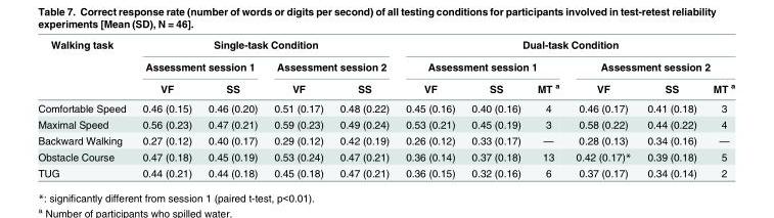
<table><thead><tr><td rowspan="3">Walking task</td><td colspan="4">Single-task Condition</td><td colspan="6">Dual-task Condition</td></tr><tr><td colspan="2">Assessment session 1</td><td colspan="2">Assessment session 2</td><td colspan="3">Assessment session 1</td><td colspan="3">Assessment session 2</td></tr><tr><td>VF</td><td>SS</td><td>VF</td><td>SS</td><td>VF</td><td>SS</td><td>MT <sup>a</sup></td><td>VF</td><td>SS</td><td>MT <sup>a</sup></td></tr></thead><tbody><tr><td>Comfortable Speed</td><td>0.46 (0.15)</td><td>0.46 (0.20)</td><td>0.51 (0.17)</td><td>0.48 (0.22)</td><td>0.45 (0.16)</td><td>0.40 (0.16)</td><td>4</td><td>0.46 (0.17)</td><td>0.41 (0.18)</td><td>3</td></tr><tr><td>Maximal Speed</td><td>0.56 (0.23)</td><td>0.47 (0.21)</td><td>0.59 (0.23)</td><td>0.49 (0.24)</td><td>0.53 (0.21)</td><td>0.45 (0.19)</td><td>3</td><td>0.58 (0.22)</td><td>0.44 (0.22)</td><td>4</td></tr><tr><td>Backward Walking</td><td>0.27 (0.12)</td><td>0.40 (0.17)</td><td>0.29 (0.12)</td><td>0.42 (0.19)</td><td>0.26 (0.12)</td><td>0.33 (0.17)</td><td>—</td><td>0.28 (0.13)</td><td>0.34 (0.16)</td><td>—</td></tr><tr><td>Obstacle Course</td><td>0.47 (0.18)</td><td>0.45 (0.19)</td><td>0.53 (0.24)</td><td>0.47 (0.21)</td><td>0.36 (0.14)</td><td>0.37 (0.18)</td><td>13</td><td>0.42 (0.17)*</td><td>0.39 (0.18)</td><td>5</td></tr><tr><td>TUG</td><td>0.44 (0.21)</td><td>0.44 (0.18)</td><td>0.45 (0.18)</td><td>0.47 (0.21)</td><td>0.36 (0.15)</td><td>0.32 (0.16)</td><td>6</td><td>0.37 (0.17)</td><td>0.34 (0.14)</td><td>2</td></tr></tbody></table>